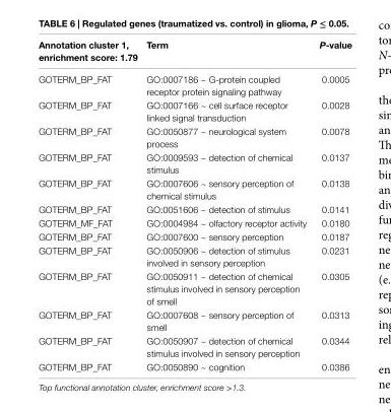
<table><thead><tr><td>annotation cluster 1, enrichment score: 1.79</td><td>Term</td><td>P-value</td></tr></thead><tbody><tr><td>GOTERM_BP_FAT</td><td>GO:0007186 ~ G-protein coupled receptor protein signaling pathway</td><td>0.0005</td></tr><tr><td>GOTERM_BP_FAT</td><td>GO:0007166 ~ cell surface receptor linked signal transduction</td><td>0.0028</td></tr><tr><td>GOTERM_BP_FAT</td><td>GO:0050877 ~ neurological system process</td><td>0.0078</td></tr><tr><td>GOTERM_BP_FAT</td><td>GO:0009593 ~ detection of chemical stimulus</td><td>0.0137</td></tr><tr><td>GOTERM_BP_FAT</td><td>GO:0007606 ~ sensory perception of chemical stimulus</td><td>0.0138</td></tr><tr><td>GOTERM_BP_FAT</td><td>GO:0051606 ~ detection of stimulus</td><td>0.0141</td></tr><tr><td>GOTERM_MF_FAT</td><td>GO:0004984 ~ olfactory receptor activity</td><td>0.0180</td></tr><tr><td>GOTERM_BP_FAT</td><td>GO:0007600 ~ sensory perception</td><td>0.0187</td></tr><tr><td>GOTERM_BP_FAT</td><td>GO:0050906 ~ detection of stimulus involved in sensory perception</td><td>0.0231</td></tr><tr><td>GOTERM_BP_FAT</td><td>GO:0050911 ~ detection of chemical stimulus involved in sensory perception of smell</td><td>0.0305</td></tr><tr><td>GOTERM_BP_FAT</td><td>GO:0007608 ~ sensory perception of smell</td><td>0.0313</td></tr><tr><td>GOTERM_BP_FAT</td><td>GO:0050907 ~ detection of chemical stimulus involved in sensory perception</td><td>0.0344</td></tr><tr><td>GOTERM_BP_FAT</td><td>GO:0050890 ~ cognition</td><td>0.0386</td></tr></tbody></table>